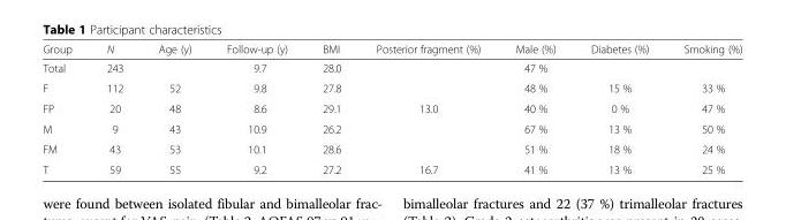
<table><thead><tr><td>Group</td><td>N</td><td>Age (y)</td><td>Follow-up (y)</td><td>BMI</td><td>Posterior fragment (%)</td><td>Male (%)</td><td>Diabetes (%)</td><td>Smoking (%)</td></tr></thead><tbody><tr><td>Total</td><td>243</td><td></td><td>9.7</td><td>28.0</td><td></td><td>47 %</td><td></td><td></td></tr><tr><td>F</td><td>112</td><td>52</td><td>9.8</td><td>27.8</td><td></td><td>48 %</td><td>15 %</td><td>33 %</td></tr><tr><td>FP</td><td>20</td><td>48</td><td>8.6</td><td>29.1</td><td>13.0</td><td>40 %</td><td>0 %</td><td>47 %</td></tr><tr><td>M</td><td>9</td><td>43</td><td>10.9</td><td>26.2</td><td></td><td>67 %</td><td>13 %</td><td>50 %</td></tr><tr><td>FM</td><td>43</td><td>53</td><td>10.1</td><td>28.6</td><td></td><td>51 %</td><td>18 %</td><td>24 %</td></tr><tr><td>T</td><td>59</td><td>55</td><td>9.2</td><td>27.2</td><td>16.7</td><td>41 %</td><td>13 %</td><td>25 %</td></tr></tbody></table>